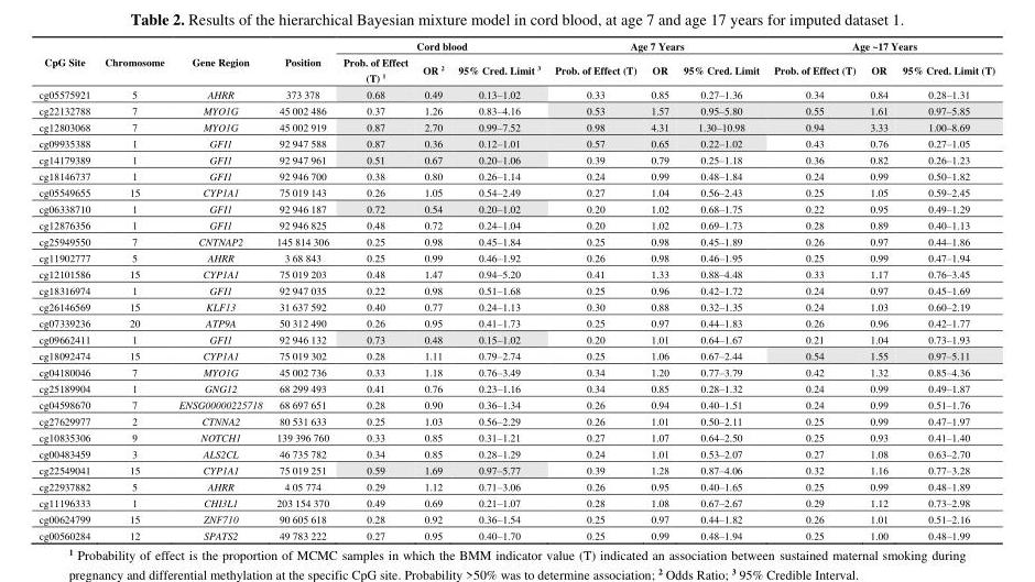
<table><thead><tr><td rowspan="2">CpG Site</td><td rowspan="2">Chromosome</td><td rowspan="2">Gene Region</td><td rowspan="2">Position</td><td colspan="3">Cord blood</td><td colspan="3">Age 7 Years</td><td colspan="3">Age ~17 Years</td></tr><tr><td>Prob. of Effect (T) <sup>1</sup></td><td>OR <sup>2</sup></td><td>95% Cred. Limit <sup>3</sup></td><td>Prob. of Effect (T)</td><td>OR</td><td>95% Cred. Limit</td><td>Prob. of Effect (T)</td><td>OR</td><td>95% Cred. Limit (T)</td></tr></thead><tbody><tr><td>cg05575921</td><td>5</td><td>AHRR</td><td>373 378</td><td>0.68</td><td>0.49</td><td>0.13–1.02</td><td>0.33</td><td>0.85</td><td>0.27–1.36</td><td>0.34</td><td>0.84</td><td>0.28–1.31</td></tr><tr><td>cg22132788</td><td>7</td><td>MYO1G</td><td>45 002 486</td><td>0.37</td><td>1.26</td><td>0.83–4.16</td><td>0.53</td><td>1.57</td><td>0.95–5.80</td><td>0.55</td><td>1.61</td><td>0.97–5.85</td></tr><tr><td>cg12803068</td><td>7</td><td>MYO1G</td><td>45 002 919</td><td>0.87</td><td>2.70</td><td>0.99–7.52</td><td>0.98</td><td>4.31</td><td>1.30–10.98</td><td>0.94</td><td>3.33</td><td>1.00–8.69</td></tr><tr><td>cg09935388</td><td>1</td><td>GFI1</td><td>92 947 588</td><td>0.87</td><td>0.36</td><td>0.12–1.01</td><td>0.57</td><td>0.65</td><td>0.22–1.02</td><td>0.43</td><td>0.76</td><td>0.27–1.05</td></tr><tr><td>cg14179389</td><td>1</td><td>GFI1</td><td>92 947 961</td><td>0.51</td><td>0.67</td><td>0.20–1.06</td><td>0.39</td><td>0.79</td><td>0.25–1.18</td><td>0.36</td><td>0.82</td><td>0.26–1.23</td></tr><tr><td>cg18146737</td><td>1</td><td>GFI1</td><td>92 946 700</td><td>0.38</td><td>0.80</td><td>0.26–1.14</td><td>0.24</td><td>0.99</td><td>0.48–1.84</td><td>0.24</td><td>0.99</td><td>0.50–1.82</td></tr><tr><td>cg05549655</td><td>15</td><td>CYP1A1</td><td>75 019 143</td><td>0.26</td><td>1.05</td><td>0.54–2.49</td><td>0.27</td><td>1.04</td><td>0.56–2.43</td><td>0.25</td><td>1.05</td><td>0.59–2.45</td></tr><tr><td>cg06338710</td><td>1</td><td>GFI1</td><td>92 946 187</td><td>0.72</td><td>0.54</td><td>0.20–1.02</td><td>0.20</td><td>1.02</td><td>0.68–1.75</td><td>0.22</td><td>0.95</td><td>0.49–1.29</td></tr><tr><td>cg12876356</td><td>1</td><td>GFI1</td><td>92 946 825</td><td>0.48</td><td>0.72</td><td>0.24–1.04</td><td>0.20</td><td>1.02</td><td>0.69–1.73</td><td>0.28</td><td>0.89</td><td>0.40–1.13</td></tr><tr><td>cg25949550</td><td>7</td><td>CNTNAP2</td><td>145 814 306</td><td>0.25</td><td>0.98</td><td>0.45–1.84</td><td>0.25</td><td>0.98</td><td>0.45–1.89</td><td>0.26</td><td>0.97</td><td>0.44–1.86</td></tr><tr><td>cg11902777</td><td>5</td><td>AHRR</td><td>3 68 843</td><td>0.25</td><td>0.99</td><td>0.46–1.92</td><td>0.26</td><td>0.98</td><td>0.46–1.95</td><td>0.25</td><td>0.99</td><td>0.47–1.94</td></tr><tr><td>cg12101586</td><td>15</td><td>CYP1A1</td><td>75 019 203</td><td>0.48</td><td>1.47</td><td>0.94–5.20</td><td>0.41</td><td>1.33</td><td>0.88–4.48</td><td>0.33</td><td>1.17</td><td>0.76–3.45</td></tr><tr><td>cg18316974</td><td>1</td><td>GFI1</td><td>92 947 035</td><td>0.22</td><td>0.98</td><td>0.51–1.68</td><td>0.25</td><td>0.96</td><td>0.42–1.72</td><td>0.24</td><td>0.97</td><td>0.45–1.69</td></tr><tr><td>cg26146569</td><td>15</td><td>KLF13</td><td>31 637 592</td><td>0.40</td><td>0.77</td><td>0.24–1.13</td><td>0.30</td><td>0.88</td><td>0.32–1.35</td><td>0.24</td><td>1.03</td><td>0.60–2.19</td></tr><tr><td>cg07339236</td><td>20</td><td>ATP9A</td><td>50 312 490</td><td>0.26</td><td>0.95</td><td>0.41–1.73</td><td>0.25</td><td>0.97</td><td>0.44–1.83</td><td>0.26</td><td>0.96</td><td>0.42–1.77</td></tr><tr><td>cg09662411</td><td>1</td><td>GFI1</td><td>92 946 132</td><td>0.73</td><td>0.48</td><td>0.15–1.02</td><td>0.20</td><td>1.01</td><td>0.64–1.67</td><td>0.21</td><td>1.04</td><td>0.73–1.93</td></tr><tr><td>cg18092474</td><td>15</td><td>CYP1A1</td><td>75 019 302</td><td>0.28</td><td>1.11</td><td>0.79–2.74</td><td>0.25</td><td>1.06</td><td>0.67–2.44</td><td>0.54</td><td>1.55</td><td>0.97–5.11</td></tr><tr><td>cg04180046</td><td>7</td><td>MYO1G</td><td>45 002 736</td><td>0.33</td><td>1.18</td><td>0.76–3.49</td><td>0.34</td><td>1.20</td><td>0.77–3.79</td><td>0.42</td><td>1.32</td><td>0.85–4.36</td></tr><tr><td>cg25189904</td><td>1</td><td>GNG12</td><td>68 299 493</td><td>0.41</td><td>0.76</td><td>0.23–1.16</td><td>0.34</td><td>0.85</td><td>0.28–1.32</td><td>0.24</td><td>0.99</td><td>0.49–1.87</td></tr><tr><td>cg04598670</td><td>7</td><td>ENSG00000225718</td><td>68 697 651</td><td>0.28</td><td>0.90</td><td>0.36–1.34</td><td>0.26</td><td>0.94</td><td>0.40–1.51</td><td>0.24</td><td>0.99</td><td>0.51–1.76</td></tr><tr><td>cg27629977</td><td>2</td><td>CTNNA2</td><td>80 531 633</td><td>0.25</td><td>1.03</td><td>0.56–2.29</td><td>0.26</td><td>1.01</td><td>0.50–2.11</td><td>0.25</td><td>0.99</td><td>0.47–1.97</td></tr><tr><td>cg10835306</td><td>9</td><td>NOTCH1</td><td>139 396 760</td><td>0.33</td><td>0.85</td><td>0.31–1.21</td><td>0.27</td><td>1.07</td><td>0.64–2.50</td><td>0.25</td><td>0.93</td><td>0.41–1.40</td></tr><tr><td>cg00483459</td><td>3</td><td>ALS2CL</td><td>46 735 782</td><td>0.34</td><td>0.85</td><td>0.28–1.29</td><td>0.24</td><td>1.01</td><td>0.53–2.07</td><td>0.27</td><td>1.08</td><td>0.63–2.70</td></tr><tr><td>cg22549041</td><td>15</td><td>CYP1A1</td><td>75 019 251</td><td>0.59</td><td>1.69</td><td>0.97–5.77</td><td>0.39</td><td>1.28</td><td>0.87–4.06</td><td>0.32</td><td>1.16</td><td>0.77–3.28</td></tr><tr><td>cg22937882</td><td>5</td><td>AHRR</td><td>4 05 774</td><td>0.29</td><td>1.12</td><td>0.71–3.06</td><td>0.26</td><td>0.95</td><td>0.40–1.65</td><td>0.25</td><td>0.99</td><td>0.48–1.89</td></tr><tr><td>cg11196333</td><td>1</td><td>CHI3L1</td><td>203 154 370</td><td>0.49</td><td>0.69</td><td>0.21–1.07</td><td>0.28</td><td>1.08</td><td>0.67–2.67</td><td>0.29</td><td>1.12</td><td>0.73–2.98</td></tr><tr><td>cg00624799</td><td>15</td><td>ZNF710</td><td>90 605 618</td><td>0.28</td><td>0.92</td><td>0.36–1.54</td><td>0.25</td><td>0.97</td><td>0.44–1.82</td><td>0.26</td><td>1.01</td><td>0.51–2.16</td></tr><tr><td>cg00560284</td><td>12</td><td>SPATS2</td><td>49 783 222</td><td>0.27</td><td>0.95</td><td>0.40–1.70</td><td>0.25</td><td>0.99</td><td>0.48–1.94</td><td>0.25</td><td>1.00</td><td>0.48–1.99</td></tr></tbody></table>